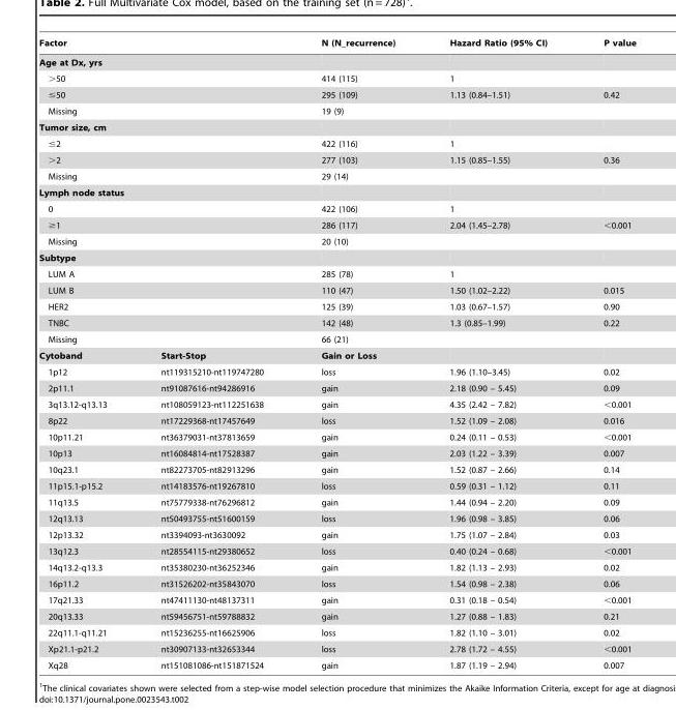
<table><thead><tr><td colspan="2">Factor</td><td>N (N_recurrence)</td><td>Hazard Ratio (95% CI)</td><td>P value</td></tr></thead><tbody><tr><td colspan="5">Age at Dx, yrs</td></tr><tr><td colspan="2">&gt;50</td><td>414 (115)</td><td>1</td><td></td></tr><tr><td colspan="2">≤50</td><td>295 (109)</td><td>1.13 (0.84–1.51)</td><td>0.42</td></tr><tr><td colspan="2">Missing</td><td>19 (9)</td><td></td><td></td></tr><tr><td colspan="5">Tumor size, cm</td></tr><tr><td colspan="2">≤2</td><td>422 (116)</td><td>1</td><td></td></tr><tr><td colspan="2">&gt;2</td><td>277 (103)</td><td>1.15 (0.85–1.55)</td><td>0.36</td></tr><tr><td colspan="2">Missing</td><td>29 (14)</td><td></td><td></td></tr><tr><td colspan="5">Lymph node status</td></tr><tr><td colspan="2">0</td><td>422 (106)</td><td>1</td><td></td></tr><tr><td colspan="2">≥1</td><td>286 (117)</td><td>2.04 (1.45–2.78)</td><td>&lt;0.001</td></tr><tr><td colspan="2">Missing</td><td>20 (10)</td><td></td><td></td></tr><tr><td colspan="5">Subtype</td></tr><tr><td colspan="2">LUM A</td><td>285 (78)</td><td>1</td><td></td></tr><tr><td colspan="2">LUM B</td><td>110 (47)</td><td>1.50 (1.02–2.22)</td><td>0.015</td></tr><tr><td colspan="2">HER2</td><td>125 (39)</td><td>1.03 (0.67–1.57)</td><td>0.90</td></tr><tr><td colspan="2">TNBC</td><td>142 (48)</td><td>1.3 (0.85–1.99)</td><td>0.22</td></tr><tr><td colspan="2">Missing</td><td>66 (21)</td><td></td><td></td></tr><tr><td>Cytoband</td><td>Start-Stop</td><td>Gain or Loss</td><td></td><td></td></tr><tr><td>1p12</td><td>nt119315210-nt119747280</td><td>loss</td><td>1.96 (1.10–3.45)</td><td>0.02</td></tr><tr><td>2p11.1</td><td>nt91087616-nt94286916</td><td>gain</td><td>2.18 (0.90 – 5.45)</td><td>0.09</td></tr><tr><td>3q13.12-q13.13</td><td>nt108059123-nt112251638</td><td>gain</td><td>4.35 (2.42 – 7.82)</td><td>&lt;0.001</td></tr><tr><td>8p22</td><td>nt17229368-nt17457649</td><td>loss</td><td>1.52 (1.09 – 2.08)</td><td>0.016</td></tr><tr><td>10p11.21</td><td>nt36379031-nt37813659</td><td>gain</td><td>0.24 (0.11 – 0.53)</td><td>&lt;0.001</td></tr><tr><td>10p13</td><td>nt16084814-nt17528387</td><td>gain</td><td>2.03 (1.22 – 3.39)</td><td>0.007</td></tr><tr><td>10q23.1</td><td>nt82273705-nt82913296</td><td>gain</td><td>1.52 (0.87 – 2.66)</td><td>0.14</td></tr><tr><td>11p15.1-p15.2</td><td>nt14183576-nt19267810</td><td>loss</td><td>0.59 (0.31 – 1.12)</td><td>0.11</td></tr><tr><td>11q13.5</td><td>nt75779338-nt76296812</td><td>gain</td><td>1.44 (0.94 – 2.20)</td><td>0.09</td></tr><tr><td>12q13.13</td><td>nt50493755-nt51600159</td><td>loss</td><td>1.96 (0.98 – 3.85)</td><td>0.06</td></tr><tr><td>12p13.32</td><td>nt3394093-nt3630092</td><td>gain</td><td>1.75 (1.07 – 2.84)</td><td>0.03</td></tr><tr><td>13q12.3</td><td>nt28554115-nt29380652</td><td>loss</td><td>0.40 (0.24 – 0.68)</td><td>&lt;0.001</td></tr><tr><td>14q13.2-q13.3</td><td>nt35380230-nt36252346</td><td>gain</td><td>1.82 (1.13 – 2.93)</td><td>0.02</td></tr><tr><td>16p11.2</td><td>nt31526202-nt35843070</td><td>loss</td><td>1.54 (0.98 – 2.38)</td><td>0.06</td></tr><tr><td>17q21.33</td><td>nt47411130-nt48137311</td><td>gain</td><td>0.31 (0.18 – 0.54)</td><td>&lt;0.001</td></tr><tr><td>20q13.33</td><td>nt59456751-nt59788832</td><td>gain</td><td>1.27 (0.88 – 1.83)</td><td>0.21</td></tr><tr><td>22q11.1-q11.21</td><td>nt15236255-nt16625906</td><td>loss</td><td>1.82 (1.10 – 3.01)</td><td>0.02</td></tr><tr><td>Xp21.1-p21.2</td><td>nt30907133-nt32653344</td><td>loss</td><td>2.78 (1.72 – 4.55)</td><td>&lt;0.001</td></tr><tr><td>Xq28</td><td>nt151081086-nt151871524</td><td>gain</td><td>1.87 (1.19 – 2.94)</td><td>0.007</td></tr></tbody></table>